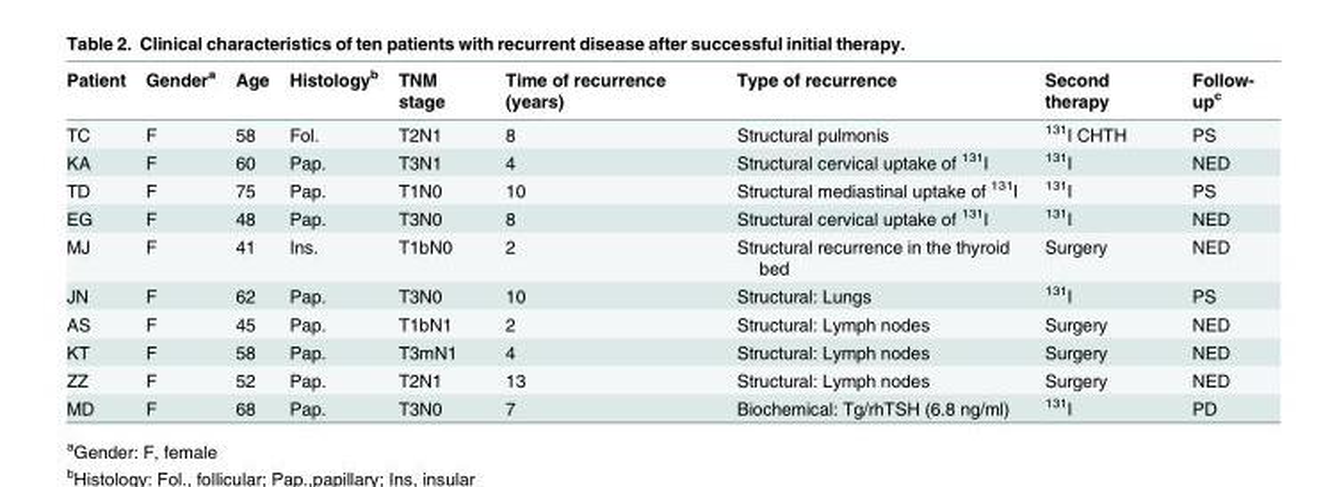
<table><thead><tr><td>Patient</td><td>Gender<sup>a</sup></td><td>Age</td><td>Histology<sup>b</sup></td><td>TNM stage</td><td>Time of recurrence (years)</td><td>Type of recurrence</td><td>Second therapy</td><td>Follow- up<sup>c</sup></td></tr></thead><tbody><tr><td>TC</td><td>F</td><td>58</td><td>Fol.</td><td>T2N1</td><td>8</td><td>Structural pulmonis</td><td><sup>131</sup>I CHTH</td><td>PS</td></tr><tr><td>KA</td><td>F</td><td>60</td><td>Pap.</td><td>T3N1</td><td>4</td><td>Structural cervical uptake of <sup>131</sup>I</td><td><sup>131</sup>I</td><td>NED</td></tr><tr><td>TD</td><td>F</td><td>75</td><td>Pap.</td><td>T1N0</td><td>10</td><td>Structural mediastinal uptake of <sup>131</sup>I</td><td><sup>131</sup>I</td><td>PS</td></tr><tr><td>EG</td><td>F</td><td>48</td><td>Pap.</td><td>T3N0</td><td>8</td><td>Structural cervical uptake of <sup>131</sup>I</td><td><sup>131</sup>I</td><td>NED</td></tr><tr><td>MJ</td><td>F</td><td>41</td><td>Ins.</td><td>T1bN0</td><td>2</td><td>Structural recurrence in the thyroid bed</td><td>Surgery</td><td>NED</td></tr><tr><td>JN</td><td>F</td><td>62</td><td>Pap.</td><td>T3N0</td><td>10</td><td>Structural: Lungs</td><td><sup>131</sup>I</td><td>PS</td></tr><tr><td>AS</td><td>F</td><td>45</td><td>Pap.</td><td>T1bN1</td><td>2</td><td>Structural: Lymph nodes</td><td>Surgery</td><td>NED</td></tr><tr><td>KT</td><td>F</td><td>58</td><td>Pap.</td><td>T3mN1</td><td>4</td><td>Structural: Lymph nodes</td><td>Surgery</td><td>NED</td></tr><tr><td>ZZ</td><td>F</td><td>52</td><td>Pap.</td><td>T2N1</td><td>13</td><td>Structural: Lymph nodes</td><td>Surgery</td><td>NED</td></tr><tr><td>MD</td><td>F</td><td>68</td><td>Pap.</td><td>T3N0</td><td>7</td><td>Biochemical: Tg/rhTSH (6.8 ng/ml)</td><td><sup>131</sup>I</td><td>PD</td></tr></tbody></table>